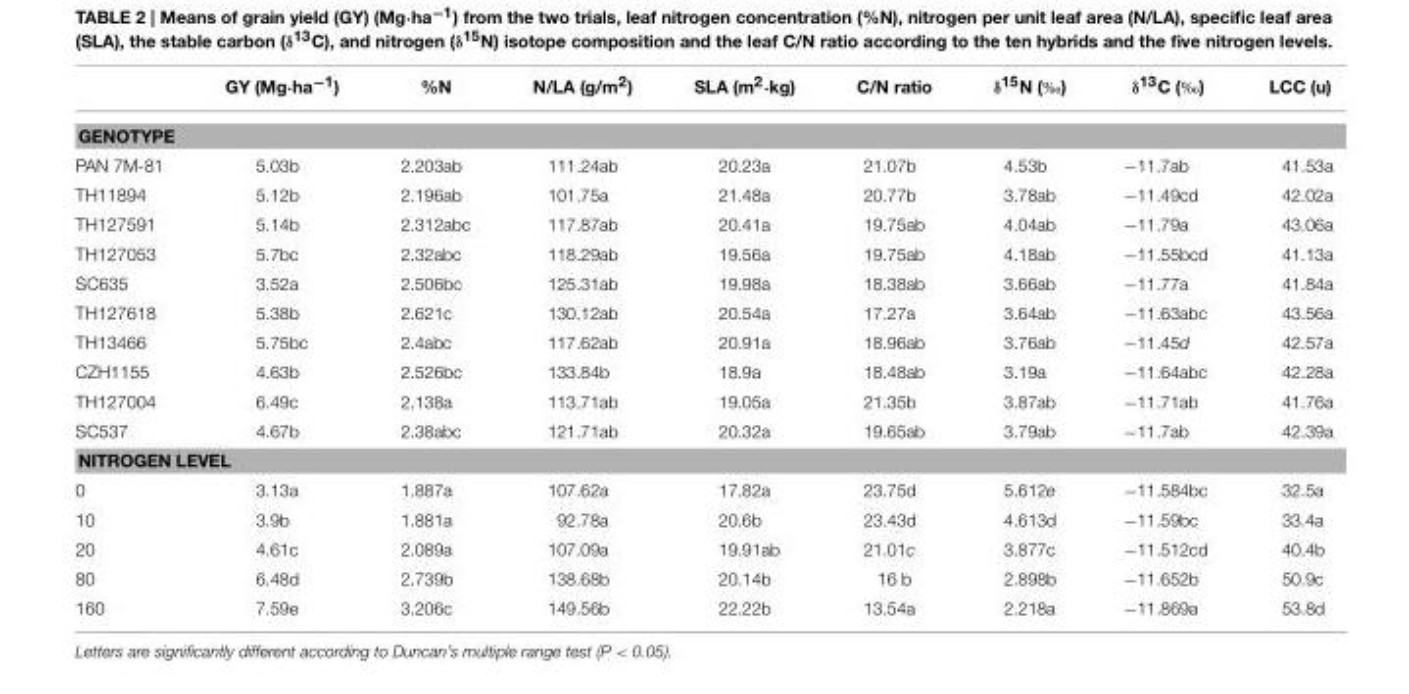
<table><thead><tr><td></td><td>GY (Mg·ha<sup>−1</sup>)</td><td>%N</td><td>N/LA (g/m<sup>2</sup>)</td><td>SLA (m<sup>2</sup>·kg)</td><td>C/N ratio</td><td>δ15N (‰)</td><td>δ13C (‰)</td><td>LCC (u)</td></tr></thead><tbody><tr><td colspan="9">GENOTYPE</td></tr><tr><td>PAN 7M-81</td><td>5.03b</td><td>2.203ab</td><td>111.24ab</td><td>20.23a</td><td>21.07b</td><td>4.53b</td><td>−11.7ab</td><td>41.53a</td></tr><tr><td>TH11894</td><td>5.12b</td><td>2.196ab</td><td>101.75a</td><td>21.48a</td><td>20.77b</td><td>3.78ab</td><td>−11.49cd</td><td>42.02a</td></tr><tr><td>TH127591</td><td>5.14b</td><td>2.312abc</td><td>117.87ab</td><td>20.41a</td><td>19.75ab</td><td>4.04ab</td><td>−11.79a</td><td>43.06a</td></tr><tr><td>TH127053</td><td>5.7bc</td><td>2.32abc</td><td>118.29ab</td><td>19.56a</td><td>19.75ab</td><td>4.18ab</td><td>−11.55bcd</td><td>41.13a</td></tr><tr><td>SC635</td><td>3.52a</td><td>2.506bc</td><td>125.31ab</td><td>19.98a</td><td>18.38ab</td><td>3.66ab</td><td>−11.77a</td><td>41.84a</td></tr><tr><td>TH127618</td><td>5.38b</td><td>2.621c</td><td>130.12ab</td><td>20.54a</td><td>17.27a</td><td>3.64ab</td><td>−11.63abc</td><td>43.56a</td></tr><tr><td>TH13466</td><td>5.75bc</td><td>2.4abc</td><td>117.62ab</td><td>20.91a</td><td>18.96ab</td><td>3.76ab</td><td>−11.45d</td><td>42.57a</td></tr><tr><td>CZH1155</td><td>4.63b</td><td>2.526bc</td><td>133.84b</td><td>18.9a</td><td>18.48ab</td><td>3.19a</td><td>−11.64abc</td><td>42.28a</td></tr><tr><td>TH127004</td><td>6.49c</td><td>2.138a</td><td>113.71ab</td><td>19.05a</td><td>21.35b</td><td>3.87ab</td><td>−11.71ab</td><td>41.76a</td></tr><tr><td>SC537</td><td>4.67b</td><td>2.38abc</td><td>121.71ab</td><td>20.32a</td><td>19.65ab</td><td>3.79ab</td><td>−11.7ab</td><td>42.39a</td></tr><tr><td colspan="9">NITROGEN LEVEL</td></tr><tr><td>0</td><td>3.13a</td><td>1.887a</td><td>107.62a</td><td>17.82a</td><td>23.75d</td><td>5.612e</td><td>−11.584bc</td><td>32.5a</td></tr><tr><td>10</td><td>3.9b</td><td>1.881a</td><td>92.78a</td><td>20.6b</td><td>23.43d</td><td>4.613d</td><td>−11.59bc</td><td>33.4a</td></tr><tr><td>20</td><td>4.61c</td><td>2.089a</td><td>107.09a</td><td>19.91ab</td><td>21.01c</td><td>3.877c</td><td>−11.512cd</td><td>40.4b</td></tr><tr><td>80</td><td>6.48d</td><td>2.739b</td><td>138.68b</td><td>20.14b</td><td>16 b</td><td>2.898b</td><td>−11.652b</td><td>50.9c</td></tr><tr><td>160</td><td>7.59e</td><td>3.206c</td><td>149.56b</td><td>22.22b</td><td>13.54a</td><td>2.218a</td><td>−11.869a</td><td>53.8d</td></tr></tbody></table>